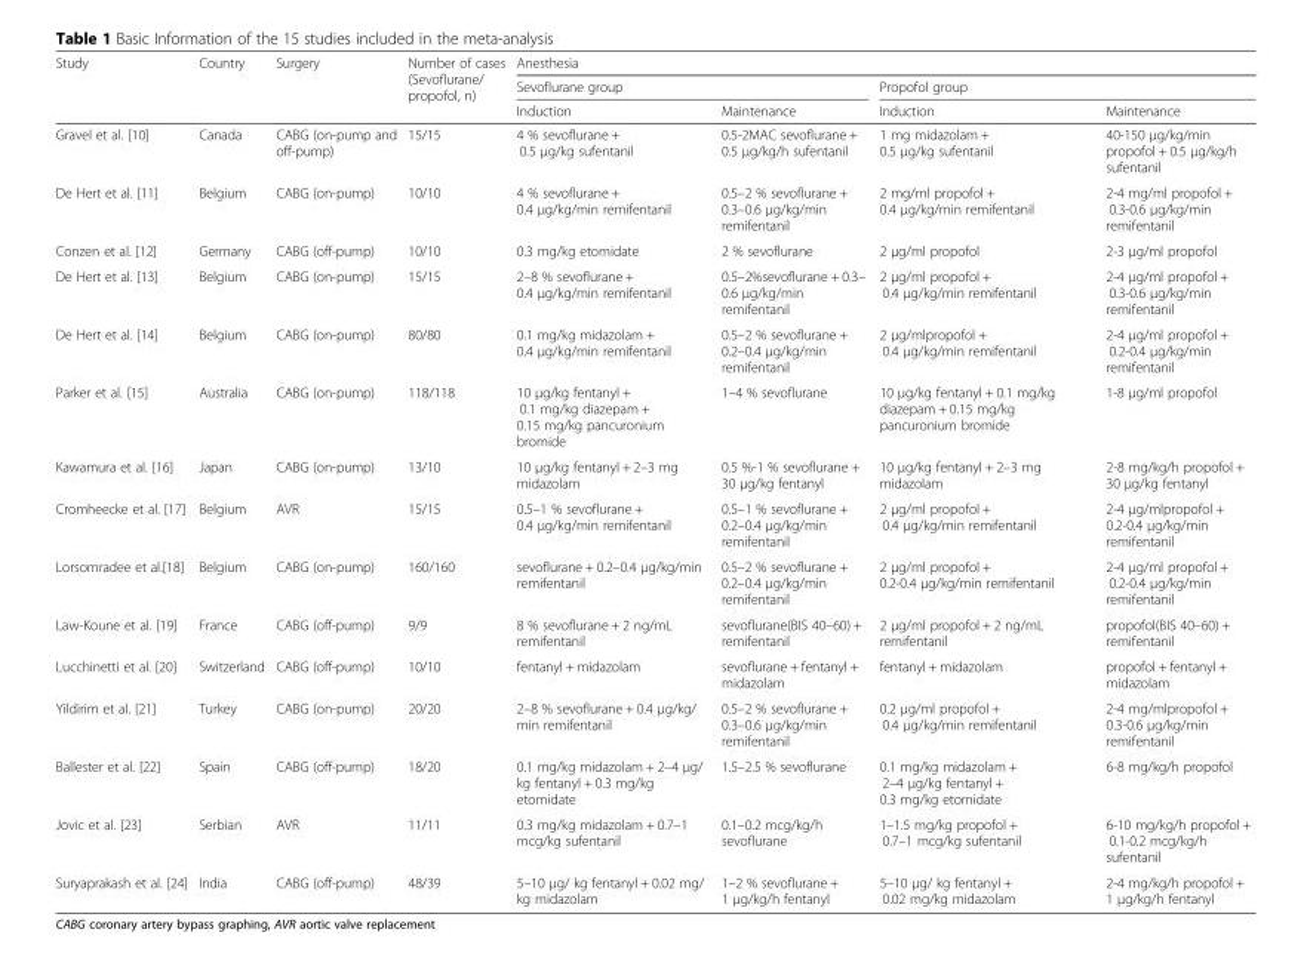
<table><thead><tr><td rowspan="3">Study</td><td rowspan="3">Country</td><td rowspan="3">Surgery</td><td rowspan="3">Number of cases (Sevoflurane/ propofol, n)</td><td colspan="4">Anesthesia</td></tr><tr><td colspan="2">Sevoflurane group</td><td colspan="2">Propofol group</td></tr><tr><td>Induction</td><td>Maintenance</td><td>Induction</td><td>Maintenance</td></tr></thead><tbody><tr><td>Gravel et al. [10]</td><td>Canada</td><td>CABG (on-pump and off-pump)</td><td>15/15</td><td>4 % sevoflurane + 0.5 μg/kg sufentanil</td><td>0.5-2MAC sevoflurane + 0.5 μg/kg/h sufentanil</td><td>1 mg midazolam + 0.5 μg/kg sufentanil</td><td>40-150 μg/kg/min propofol + 0.5 μg/kg/h sufentanil</td></tr><tr><td>De Hert et al. [11]</td><td>Belgium</td><td>CABG (on-pump)</td><td>10/10</td><td>4 % sevoflurane + 0.4 μg/kg/min remifentanil</td><td>0.5–2 % sevoflurane + 0.3–0.6 μg/kg/min remifentanil</td><td>2 mg/ml propofol + 0.4 μg/kg/min remifentanil</td><td>2-4 mg/ml propofol + 0.3-0.6 μg/kg/min remifentanil</td></tr><tr><td>Conzen et al. [12]</td><td>Germany</td><td>CABG (off-pump)</td><td>10/10</td><td>0.3 mg/kg etomidate</td><td>2 % sevoflurane</td><td>2 μg/ml propofol</td><td>2-3 μg/ml propofol</td></tr><tr><td>De Hert et al. [13]</td><td>Belgium</td><td>CABG (on-pump)</td><td>15/15</td><td>2–8 % sevoflurane + 0.4 μg/kg/min remifentanil</td><td>0.5–2%sevoflurane + 0.3– 0.6 μg/kg/min remifentanil</td><td>2 μg/ml propofol + 0.4 μg/kg/min remifentanil</td><td>2-4 μg/ml propofol + 0.3-0.6 μg/kg/min remifentanil</td></tr><tr><td>De Hert et al. [14]</td><td>Belgium</td><td>CABG (on-pump)</td><td>80/80</td><td>0.1 mg/kg midazolam + 0.4 μg/kg/min remifentanil</td><td>0.5–2 % sevoflurane + 0.2–0.4 μg/kg/min remifentanil</td><td>2 μg/mlpropofol + 0.4 μg/kg/min remifentanil</td><td>2-4 μg/ml propofol + 0.2-0.4 μg/kg/min remifentanil</td></tr><tr><td>Parker et al. [15]</td><td>Australia</td><td>CABG (on-pump)</td><td>118/118</td><td>10 μg/kg fentanyl + 0.1 mg/kg diazepam + 0.15 mg/kg pancuronium bromide</td><td>1–4 % sevoflurane</td><td>10 μg/kg fentanyl + 0.1 mg/kg diazepam + 0.15 mg/kg pancuronium bromide</td><td>1-8 μg/ml propofol</td></tr><tr><td>Kawamura et al. [16]</td><td>Japan</td><td>CABG (on-pump)</td><td>13/10</td><td>10 μg/kg fentanyl + 2–3 mg midazolam</td><td>0.5 %-1 % sevoflurane + 30 μg/kg fentanyl</td><td>10 μg/kg fentanyl + 2–3 mg midazolam</td><td>2-8 mg/kg/h propofol + 30 μg/kg fentanyl</td></tr><tr><td>Cromheecke et al. [17]</td><td>Belgium</td><td>AVR</td><td>15/15</td><td>0.5–1 % sevoflurane + 0.4 μg/kg/min remifentanil</td><td>0.5–1 % sevoflurane + 0.2–0.4 μg/kg/min remifentanil</td><td>2 μg/ml propofol + 0.4 μg/kg/min remifentanil</td><td>2-4 μg/mlpropofol + 0.2-0.4 μg/kg/min remifentanil</td></tr><tr><td>Lorsomradee et al.[18]</td><td>Belgium</td><td>CABG (on-pump)</td><td>160/160</td><td>sevoflurane + 0.2–0.4 μg/kg/min remifentanil</td><td>0.5–2 % sevoflurane + 0.2–0.4 μg/kg/min remifentanil</td><td>2 μg/ml propofol + 0.2-0.4 μg/kg/min remifentanil</td><td>2-4 μg/ml propofol + 0.2-0.4 μg/kg/min remifentanil</td></tr><tr><td>Law-Koune et al. [19]</td><td>France</td><td>CABG (off-pump)</td><td>9/9</td><td>8 % sevoflurane + 2 ng/mL remifentanil</td><td>sevoflurane(BIS 40–60) + remifentanil</td><td>2 μg/ml propofol + 2 ng/mL remifentanil</td><td>propofol(BIS 40–60) + remifentanil</td></tr><tr><td>Lucchinetti et al. [20]</td><td>Switzerland</td><td>CABG (off-pump)</td><td>10/10</td><td>fentanyl + midazolam</td><td>sevoflurane + fentanyl + midazolam</td><td>fentanyl + midazolam</td><td>propofol + fentanyl + midazolam</td></tr><tr><td>Yildirim et al. [21]</td><td>Turkey</td><td>CABG (on-pump)</td><td>20/20</td><td>2–8 % sevoflurane + 0.4 μg/kg/ min remifentanil</td><td>0.5–2 % sevoflurane + 0.3–0.6 μg/kg/min remifentanil</td><td>0.2 μg/ml propofol + 0.4 μg/kg/min remifentanil</td><td>2-4 mg/mlpropofol + 0.3-0.6 μg/kg/min remifentanil</td></tr><tr><td>Ballester et al. [22]</td><td>Spain</td><td>CABG (off-pump)</td><td>18/20</td><td>0.1 mg/kg midazolam + 2–4 μg/ kg fentanyl + 0.3 mg/kg etomidate</td><td>1.5–2.5 % sevoflurane</td><td>0.1 mg/kg midazolam + 2–4 μg/kg fentanyl + 0.3 mg/kg etomidate</td><td>6-8 mg/kg/h propofol</td></tr><tr><td>Jovic et al. [23]</td><td>Serbian</td><td>AVR</td><td>11/11</td><td>0.3 mg/kg midazolam + 0.7–1 mcg/kg sufentanil</td><td>0.1–0.2 mcg/kg/h sevoflurane</td><td>1–1.5 mg/kg propofol + 0.7–1 mcg/kg sufentanil</td><td>6-10 mg/kg/h propofol + 0.1-0.2 mcg/kg/h sufentanil</td></tr><tr><td>Suryaprakash et al. [24]</td><td>India</td><td>CABG (off-pump)</td><td>48/39</td><td>5–10 μg/ kg fentanyl + 0.02 mg/ kg midazolam</td><td>1–2 % sevoflurane + 1 μg/kg/h fentanyl</td><td>5–10 μg/ kg fentanyl + 0.02 mg/kg midazolam</td><td>2-4 mg/kg/h propofol + 1 μg/kg/h fentanyl</td></tr></tbody></table>